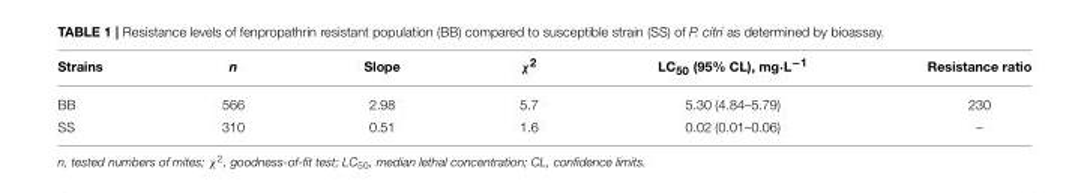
<table><thead><tr><td>Strains</td><td>n</td><td>Slope</td><td>χ<sup>2</sup></td><td>LC<sub>50</sub> (95% CL), mg·L<sup>−1</sup></td><td>Resistance ratio</td></tr></thead><tbody><tr><td>BB</td><td>566</td><td>2.98</td><td>5.7</td><td>5.30 (4.84–5.79)</td><td>230</td></tr><tr><td>SS</td><td>310</td><td>0.51</td><td>1.6</td><td>0.02 (0.01–0.06)</td><td>–</td></tr></tbody></table>